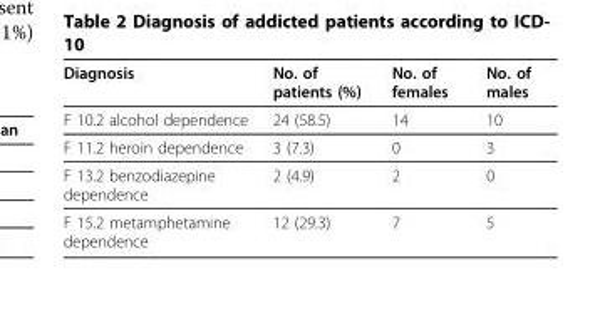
<table><thead><tr><td>Diagnosis</td><td>No. of patients (%)</td><td>No. of females</td><td>No. of males</td></tr></thead><tbody><tr><td>F 10.2 alcohol dependence</td><td>24 (58.5)</td><td>14</td><td>10</td></tr><tr><td>F 11.2 heroin dependence</td><td>3 (7.3)</td><td>0</td><td>3</td></tr><tr><td>F 13.2 benzodiazepine dependence</td><td>2 (4.9)</td><td>2</td><td>0</td></tr><tr><td>F 15.2 metamphetamine dependence</td><td>12 (29.3)</td><td>7</td><td>5</td></tr></tbody></table>